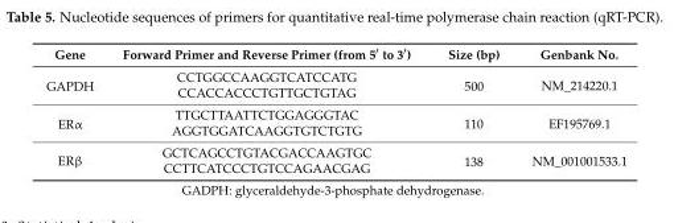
<table><thead><tr><td>Gene</td><td>Forward Primer and Reverse Primer (from 5′ to 3′)</td><td>Size (bp)</td><td>Genbank No.</td></tr></thead><tbody><tr><td rowspan="2">GAPDH</td><td>CCTGGCCAAGGTCATCCATG</td><td rowspan="2">500</td><td rowspan="2">NM_214220.1</td></tr><tr><td>CCACCACCCTGTTGCTGTAG</td></tr><tr><td rowspan="2">ERα</td><td>TTGCTTAATTCTGGAGGGTAC</td><td rowspan="2">110</td><td rowspan="2">EF195769.1</td></tr><tr><td>AGGTGGATCAAGGTGTCTGTG</td></tr><tr><td rowspan="2">ERβ</td><td>GCTCAGCCTGTACGACCAAGTGC</td><td rowspan="2">138</td><td rowspan="2">NM_001001533.1</td></tr><tr><td>CCTTCATCCCTGTCCAGAACGAG</td></tr></tbody></table>